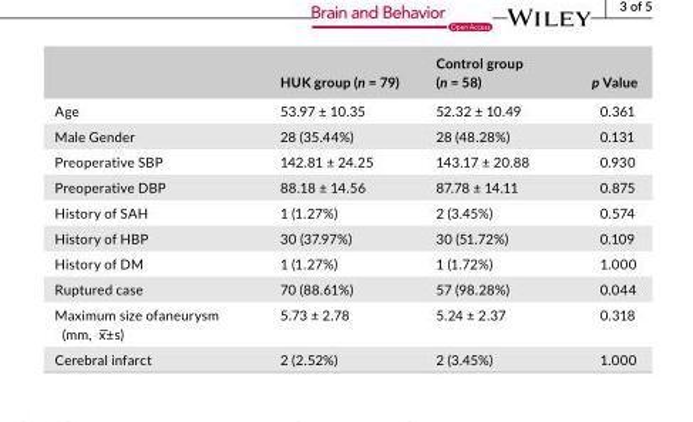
<table><thead><tr><td></td><td>HUK group (n = 79)</td><td>Control group (n = 58)</td><td>p Value</td></tr></thead><tbody><tr><td>Age</td><td>53.97 ± 10.35</td><td>52.32 ± 10.49</td><td>0.361</td></tr><tr><td>Male Gender</td><td>28 (35.44%)</td><td>28 (48.28%)</td><td>0.131</td></tr><tr><td>Preoperative SBP</td><td>142.81 ± 24.25</td><td>143.17 ± 20.88</td><td>0.930</td></tr><tr><td>Preoperative DBP</td><td>88.18 ± 14.56</td><td>87.78 ± 14.11</td><td>0.875</td></tr><tr><td>History of SAH</td><td>1 (1.27%)</td><td>2 (3.45%)</td><td>0.574</td></tr><tr><td>History of HBP</td><td>30 (37.97%)</td><td>30 (51.72%)</td><td>0.109</td></tr><tr><td>History of DM</td><td>1 (1.27%)</td><td>1 (1.72%)</td><td>1.000</td></tr><tr><td>Ruptured case</td><td>70 (88.61%)</td><td>57 (98.28%)</td><td>0.044</td></tr><tr><td>Maximum size ofaneurysm (mm, x ̅ ±s)</td><td>5.73 ± 2.78</td><td>5.24 ± 2.37</td><td>0.318</td></tr><tr><td>Cerebral infarct</td><td>2 (2.52%)</td><td>2 (3.45%)</td><td>1.000</td></tr></tbody></table>